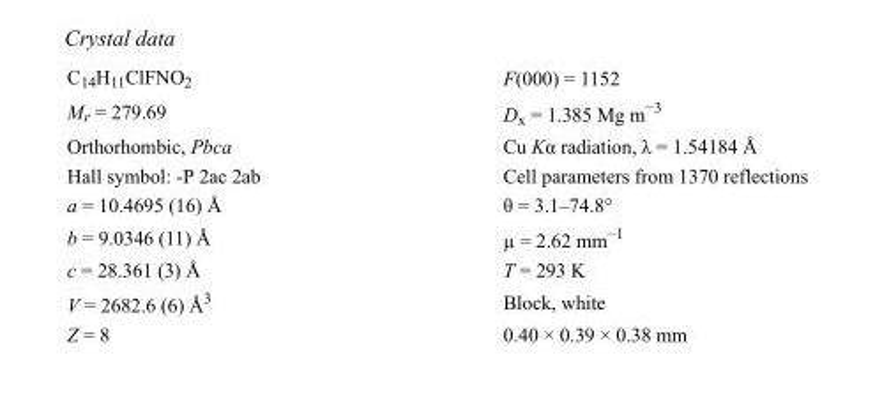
<table><tbody><tr><td>C<sub>14</sub>H<sub>11</sub>ClFNO<sub>2</sub></td><td>F(000) = 1152</td></tr><tr><td>M<sub>r</sub> = 279.69</td><td>D<sub>x</sub> = 1.385 Mg m<sup>−3</sup></td></tr><tr><td>Orthorhombic, Pbca</td><td>Cu Kα radiation, λ = 1.54184 Å</td></tr><tr><td>Hall symbol: -P 2ac 2ab</td><td>Cell parameters from 1370 reflections</td></tr><tr><td>a = 10.4695 (16) Å</td><td>θ = 3.1–74.8°</td></tr><tr><td>b = 9.0346 (11) Å</td><td>µ = 2.62 mm<sup>−1</sup></td></tr><tr><td>c = 28.361 (3) Å</td><td>T = 293 K</td></tr><tr><td>V = 2682.6 (6) Å<sup>3</sup></td><td>Block, white</td></tr><tr><td>Z = 8</td><td>0.40 × 0.39 × 0.38 mm</td></tr></tbody></table>